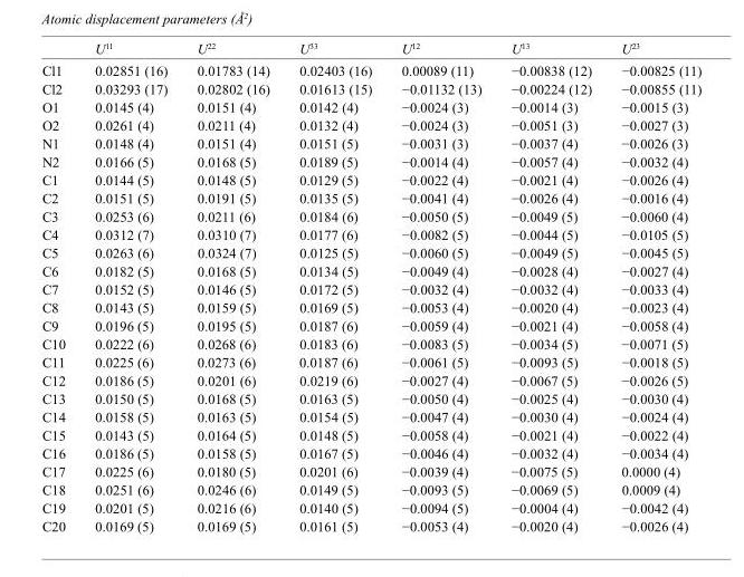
<table><thead><tr><td></td><td>U<sup>11</sup></td><td>U<sup>22</sup></td><td>U<sup>33</sup></td><td>U<sup>12</sup></td><td>U<sup>13</sup></td><td>U<sup>23</sup></td></tr></thead><tbody><tr><td>Cl1</td><td>0.02851 (16)</td><td>0.01783 (14)</td><td>0.02403 (16)</td><td>0.00089 (11)</td><td>−0.00838 (12)</td><td>−0.00825 (11)</td></tr><tr><td>Cl2</td><td>0.03293 (17)</td><td>0.02802 (16)</td><td>0.01613 (15)</td><td>−0.01132 (13)</td><td>−0.00224 (12)</td><td>−0.00855 (11)</td></tr><tr><td>O1</td><td>0.0145 (4)</td><td>0.0151 (4)</td><td>0.0142 (4)</td><td>−0.0024 (3)</td><td>−0.0014 (3)</td><td>−0.0015 (3)</td></tr><tr><td>O2</td><td>0.0261 (4)</td><td>0.0211 (4)</td><td>0.0132 (4)</td><td>−0.0024 (3)</td><td>−0.0051 (3)</td><td>−0.0027 (3)</td></tr><tr><td>N1</td><td>0.0148 (4)</td><td>0.0151 (4)</td><td>0.0151 (5)</td><td>−0.0031 (3)</td><td>−0.0037 (4)</td><td>−0.0026 (3)</td></tr><tr><td>N2</td><td>0.0166 (5)</td><td>0.0168 (5)</td><td>0.0189 (5)</td><td>−0.0014 (4)</td><td>−0.0057 (4)</td><td>−0.0032 (4)</td></tr><tr><td>C1</td><td>0.0144 (5)</td><td>0.0148 (5)</td><td>0.0129 (5)</td><td>−0.0022 (4)</td><td>−0.0021 (4)</td><td>−0.0026 (4)</td></tr><tr><td>C2</td><td>0.0151 (5)</td><td>0.0191 (5)</td><td>0.0135 (5)</td><td>−0.0041 (4)</td><td>−0.0026 (4)</td><td>−0.0016 (4)</td></tr><tr><td>C3</td><td>0.0253 (6)</td><td>0.0211 (6)</td><td>0.0184 (6)</td><td>−0.0050 (5)</td><td>−0.0049 (5)</td><td>−0.0060 (4)</td></tr><tr><td>C4</td><td>0.0312 (7)</td><td>0.0310 (7)</td><td>0.0177 (6)</td><td>−0.0082 (5)</td><td>−0.0044 (5)</td><td>−0.0105 (5)</td></tr><tr><td>C5</td><td>0.0263 (6)</td><td>0.0324 (7)</td><td>0.0125 (5)</td><td>−0.0060 (5)</td><td>−0.0049 (5)</td><td>−0.0045 (5)</td></tr><tr><td>C6</td><td>0.0182 (5)</td><td>0.0168 (5)</td><td>0.0134 (5)</td><td>−0.0049 (4)</td><td>−0.0028 (4)</td><td>−0.0027 (4)</td></tr><tr><td>C7</td><td>0.0152 (5)</td><td>0.0146 (5)</td><td>0.0172 (5)</td><td>−0.0032 (4)</td><td>−0.0032 (4)</td><td>−0.0033 (4)</td></tr><tr><td>C8</td><td>0.0143 (5)</td><td>0.0159 (5)</td><td>0.0169 (5)</td><td>−0.0053 (4)</td><td>−0.0020 (4)</td><td>−0.0023 (4)</td></tr><tr><td>C9</td><td>0.0196 (5)</td><td>0.0195 (5)</td><td>0.0187 (6)</td><td>−0.0059 (4)</td><td>−0.0021 (4)</td><td>−0.0058 (4)</td></tr><tr><td>C10</td><td>0.0222 (6)</td><td>0.0268 (6)</td><td>0.0183 (6)</td><td>−0.0083 (5)</td><td>−0.0034 (5)</td><td>−0.0071 (5)</td></tr><tr><td>C11</td><td>0.0225 (6)</td><td>0.0273 (6)</td><td>0.0187 (6)</td><td>−0.0061 (5)</td><td>−0.0093 (5)</td><td>−0.0018 (5)</td></tr><tr><td>C12</td><td>0.0186 (5)</td><td>0.0201 (6)</td><td>0.0219 (6)</td><td>−0.0027 (4)</td><td>−0.0067 (5)</td><td>−0.0026 (5)</td></tr><tr><td>C13</td><td>0.0150 (5)</td><td>0.0168 (5)</td><td>0.0163 (5)</td><td>−0.0050 (4)</td><td>−0.0025 (4)</td><td>−0.0030 (4)</td></tr><tr><td>C14</td><td>0.0158 (5)</td><td>0.0163 (5)</td><td>0.0154 (5)</td><td>−0.0047 (4)</td><td>−0.0030 (4)</td><td>−0.0024 (4)</td></tr><tr><td>C15</td><td>0.0143 (5)</td><td>0.0164 (5)</td><td>0.0148 (5)</td><td>−0.0058 (4)</td><td>−0.0021 (4)</td><td>−0.0022 (4)</td></tr><tr><td>C16</td><td>0.0186 (5)</td><td>0.0158 (5)</td><td>0.0167 (5)</td><td>−0.0046 (4)</td><td>−0.0032 (4)</td><td>−0.0034 (4)</td></tr><tr><td>C17</td><td>0.0225 (6)</td><td>0.0180 (5)</td><td>0.0201 (6)</td><td>−0.0039 (4)</td><td>−0.0075 (5)</td><td>0.0000 (4)</td></tr><tr><td>C18</td><td>0.0251 (6)</td><td>0.0246 (6)</td><td>0.0149 (5)</td><td>−0.0093 (5)</td><td>−0.0069 (5)</td><td>0.0009 (4)</td></tr><tr><td>C19</td><td>0.0201 (5)</td><td>0.0216 (6)</td><td>0.0140 (5)</td><td>−0.0094 (5)</td><td>−0.0004 (4)</td><td>−0.0042 (4)</td></tr><tr><td>C20</td><td>0.0169 (5)</td><td>0.0169 (5)</td><td>0.0161 (5)</td><td>−0.0053 (4)</td><td>−0.0020 (4)</td><td>−0.0026 (4)</td></tr></tbody></table>